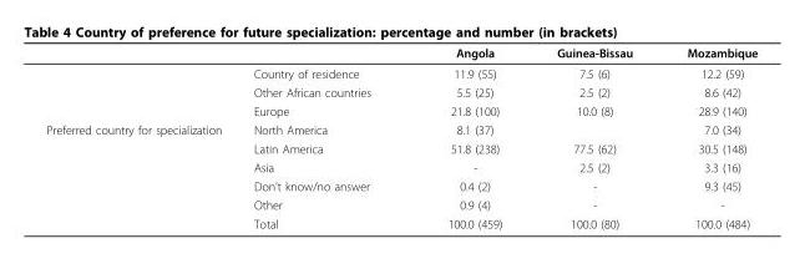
<table><thead><tr><td></td><td></td><td>Angola</td><td>Guinea-Bissau</td><td>Mozambique</td></tr></thead><tbody><tr><td></td><td>Country of residence</td><td>11.9 (55)</td><td>7.5 (6)</td><td>12.2 (59)</td></tr><tr><td></td><td>Other African countries</td><td>5.5 (25)</td><td>2.5 (2)</td><td>8.6 (42)</td></tr><tr><td></td><td>Europe</td><td>21.8 (100)</td><td>10.0 (8)</td><td>28.9 (140)</td></tr><tr><td rowspan="6">Preferred country for specialization</td><td>North America</td><td>8.1 (37)</td><td></td><td>7.0 (34)</td></tr><tr><td>Latin America</td><td>51.8 (238)</td><td>77.5 (62)</td><td>30.5 (148)</td></tr><tr><td>Asia</td><td>-</td><td>2.5 (2)</td><td>3.3 (16)</td></tr><tr><td>Don’t know/no answer</td><td>0.4 (2)</td><td>-</td><td>9.3 (45)</td></tr><tr><td>Other</td><td>0.9 (4)</td><td>-</td><td>-</td></tr><tr><td>Total</td><td>100.0 (459)</td><td>100.0 (80)</td><td>100.0 (484)</td></tr></tbody></table>